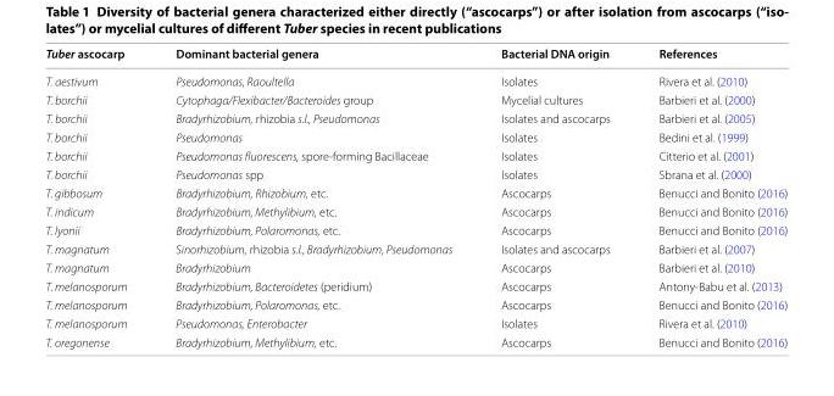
<table><thead><tr><td>Tuber ascocarp</td><td>Dominant bacterial genera</td><td>Bacterial DNA origin</td><td>References</td></tr></thead><tbody><tr><td>T. aestivum</td><td>Pseudomonas, Raoultella</td><td>Isolates</td><td>Rivera et al. (2010)</td></tr><tr><td>T. borchii</td><td>Cytophaga/Flexibacter/Bacteroides group</td><td>Mycelial cultures</td><td>Barbieri et al. (2000)</td></tr><tr><td>T. borchii</td><td>Bradyrhizobium, rhizobia s.l., Pseudomonas</td><td>Isolates and ascocarps</td><td>Barbieri et al. (2005)</td></tr><tr><td>T. borchii</td><td>Pseudomonas</td><td>Isolates</td><td>Bedini et al. (1999)</td></tr><tr><td>T. borchii</td><td>Pseudomonas fluorescens, spore-forming Bacillaceae</td><td>Isolates</td><td>Citterio et al. (2001)</td></tr><tr><td>T. borchii</td><td>Pseudomonas spp</td><td>Isolates</td><td>Sbrana et al. (2000)</td></tr><tr><td>T. gibbosum</td><td>Bradyrhizobium, Rhizobium, etc.</td><td>Ascocarps</td><td>Benucci and Bonito (2016)</td></tr><tr><td>T. indicum</td><td>Bradyrhizobium, Methylibium, etc.</td><td>Ascocarps</td><td>Benucci and Bonito (2016)</td></tr><tr><td>T. lyonii</td><td>Bradyrhizobium, Polaromonas, etc.</td><td>Ascocarps</td><td>Benucci and Bonito (2016)</td></tr><tr><td>T. magnatum</td><td>Sinorhizobium, rhizobia s.l., Bradyrhizobium, Pseudomonas</td><td>Isolates and ascocarps</td><td>Barbieri et al. (2007)</td></tr><tr><td>T. magnatum</td><td>Bradyrhizobium</td><td>Ascocarps</td><td>Barbieri et al. (2010)</td></tr><tr><td>T. melanosporum</td><td>Bradyrhizobium, Bacteroidetes (peridium)</td><td>Ascocarps</td><td>Antony-Babu et al. (2013)</td></tr><tr><td>T. melanosporum</td><td>Bradyrhizobium, Polaromonas, etc.</td><td>Ascocarps</td><td>Benucci and Bonito (2016)</td></tr><tr><td>T. melanosporum</td><td>Pseudomonas, Enterobacter</td><td>Isolates</td><td>Rivera et al. (2010)</td></tr><tr><td>T. oregonense</td><td>Bradyrhizobium, Methylibium, etc.</td><td>Ascocarps</td><td>Benucci and Bonito (2016)</td></tr></tbody></table>